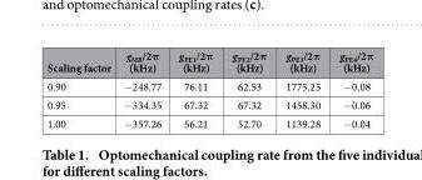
<table><thead><tr><td>Scaling factor</td><td>g<sub>MB</sub>/2π (kHz)</td><td>g<sub>PE1</sub>/2π (kHz)</td><td>g<sub>PE2</sub>/2π (kHz)</td><td>g<sub>PE3</sub>/2π (kHz)</td><td>g<sub>PE4</sub>/2π (kHz)</td></tr></thead><tbody><tr><td>0.90</td><td>− 248.77</td><td>76.11</td><td>62.53</td><td>1775.25</td><td>− 0.08</td></tr><tr><td>0.95</td><td>− 334.35</td><td>67.32</td><td>67.32</td><td>1458.30</td><td>− 0.06</td></tr><tr><td>1.00</td><td>− 357.26</td><td>56.21</td><td>52.70</td><td>1139.28</td><td>− 0.04</td></tr></tbody></table>